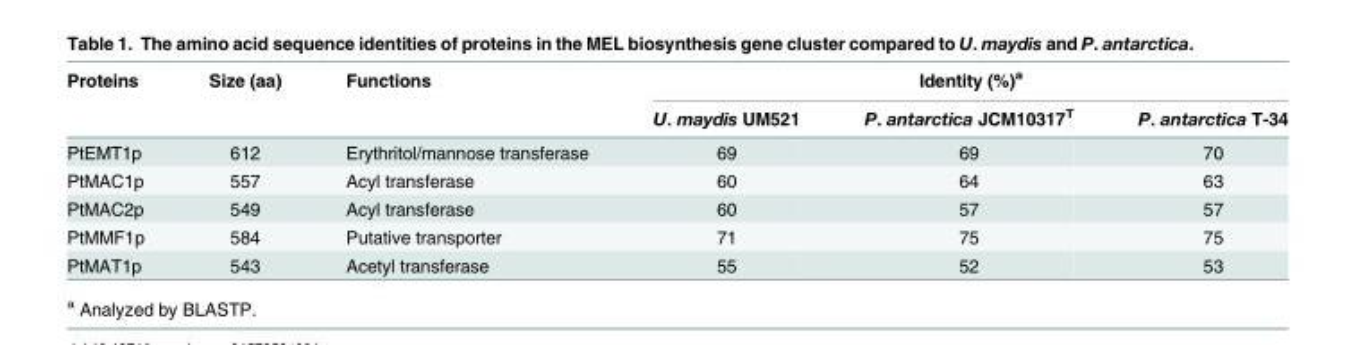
<table><thead><tr><td rowspan="2">Proteins</td><td rowspan="2">Size (aa)</td><td rowspan="2">Functions</td><td colspan="3">Identity (%)<sup>a</sup></td></tr><tr><td>U. maydis UM521</td><td>P. antarctica JCM10317<sup>T</sup></td><td>P. antarctica T-34</td></tr></thead><tbody><tr><td>PtEMT1p</td><td>612</td><td>Erythritol/mannose transferase</td><td>69</td><td>69</td><td>70</td></tr><tr><td>PtMAC1p</td><td>557</td><td>Acyl transferase</td><td>60</td><td>64</td><td>63</td></tr><tr><td>PtMAC2p</td><td>549</td><td>Acyl transferase</td><td>60</td><td>57</td><td>57</td></tr><tr><td>PtMMF1p</td><td>584</td><td>Putative transporter</td><td>71</td><td>75</td><td>75</td></tr><tr><td>PtMAT1p</td><td>543</td><td>Acetyl transferase</td><td>55</td><td>52</td><td>53</td></tr></tbody></table>